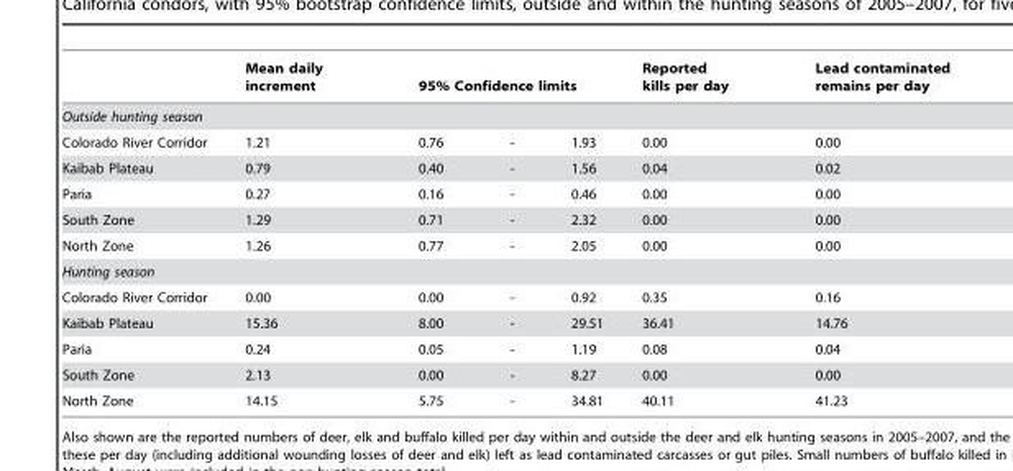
<table><thead><tr><td></td><td>Mean daily increment</td><td colspan="3">95% Confidence limits</td><td>Reported kills per day</td><td>Lead contaminated remains per day</td></tr><tr><td colspan="7">Outside hunting season</td></tr><tr><td>Colorado River Corridor</td><td>1.21</td><td>0.76</td><td>-</td><td>1.93</td><td>0.00</td><td>0.00</td></tr></thead><tbody><tr><td>Kaibab Plateau</td><td>0.79</td><td>0.40</td><td>-</td><td>1.56</td><td>0.04</td><td>0.02</td></tr><tr><td>Paria</td><td>0.27</td><td>0.16</td><td>-</td><td>0.46</td><td>0.00</td><td>0.00</td></tr><tr><td>South Zone</td><td>1.29</td><td>0.71</td><td>-</td><td>2.32</td><td>0.00</td><td>0.00</td></tr><tr><td>North Zone</td><td>1.26</td><td>0.77</td><td>-</td><td>2.05</td><td>0.00</td><td>0.00</td></tr><tr><td colspan="7">Hunting season</td></tr><tr><td>Colorado River Corridor</td><td>0.00</td><td>0.00</td><td>-</td><td>0.92</td><td>0.35</td><td>0.16</td></tr><tr><td>Kaibab Plateau</td><td>15.36</td><td>8.00</td><td>-</td><td>29.51</td><td>36.41</td><td>14.76</td></tr><tr><td>Paria</td><td>0.24</td><td>0.05</td><td>-</td><td>1.19</td><td>0.08</td><td>0.04</td></tr><tr><td>South Zone</td><td>2.13</td><td>0.00</td><td>-</td><td>8.27</td><td>0.00</td><td>0.00</td></tr><tr><td>North Zone</td><td>14.15</td><td>5.75</td><td>-</td><td>34.81</td><td>40.11</td><td>41.23</td></tr></tbody></table>